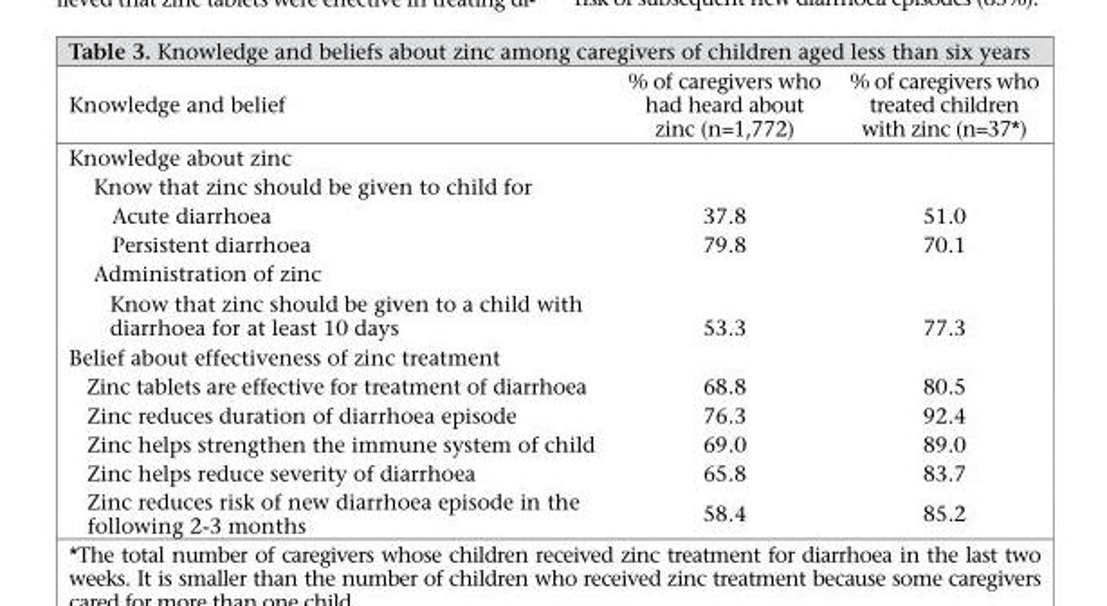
<table><thead><tr><td>Knowledge and belief</td><td>% of caregivers who had heard about zinc (n=1,772)</td><td>% of caregivers who treated children with zinc (n=37*)</td></tr></thead><tbody><tr><td colspan="3">Knowledge about zinc</td></tr><tr><td colspan="3">Know that zinc should be given to child for</td></tr><tr><td>Acute diarrhoea</td><td>37.8</td><td>51.0</td></tr><tr><td>Persistent diarrhoea</td><td>79.8</td><td>70.1</td></tr><tr><td colspan="3">Administration of zinc</td></tr><tr><td>Know that zinc should be given to a child with diarrhoea for at least 10 days</td><td>53.3</td><td>77.3</td></tr><tr><td colspan="3">Belief about effectiveness of zinc treatment</td></tr><tr><td>Zinc tablets are effective for treatment of diarrhoea</td><td>68.8</td><td>80.5</td></tr><tr><td>Zinc reduces duration of diarrhoea episode</td><td>76.3</td><td>92.4</td></tr><tr><td>Zinc helps strengthen the immune system of child</td><td>69.0</td><td>89.0</td></tr><tr><td>Zinc helps reduce severity of diarrhoea</td><td>65.8</td><td>83.7</td></tr><tr><td>Zinc reduces risk of new diarrhoea episode in the following 2-3 months</td><td>58.4</td><td>85.2</td></tr></tbody></table>